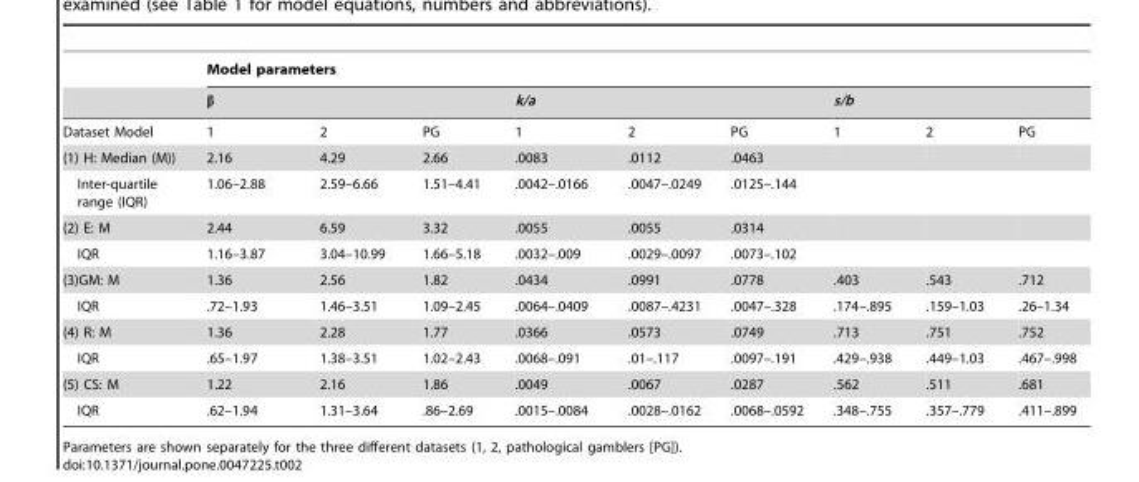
<table><thead><tr><td rowspan="3">Dataset Model</td><td colspan="9">Model parameters</td></tr><tr><td colspan="3">β</td><td colspan="3">k/a</td><td colspan="3">s/b</td></tr><tr><td>1</td><td>2</td><td>PG</td><td>1</td><td>2</td><td>PG</td><td>1</td><td>2</td><td>PG</td></tr></thead><tbody><tr><td>(1) H: Median (M))</td><td>2.16</td><td>4.29</td><td>2.66</td><td>.0083</td><td>.0112</td><td>.0463</td><td></td><td></td><td></td></tr><tr><td>Inter-quartile range (IQR)</td><td>1.06–2.88</td><td>2.59–6.66</td><td>1.51–4.41</td><td>.0042–.0166</td><td>.0047–.0249</td><td>.0125–.144</td><td></td><td></td><td></td></tr><tr><td>(2) E: M</td><td>2.44</td><td>6.59</td><td>3.32</td><td>.0055</td><td>.0055</td><td>.0314</td><td></td><td></td><td></td></tr><tr><td>IQR</td><td>1.16–3.87</td><td>3.04–10.99</td><td>1.66–5.18</td><td>.0032–.009</td><td>.0029–.0097</td><td>.0073–.102</td><td></td><td></td><td></td></tr><tr><td>(3)GM: M</td><td>1.36</td><td>2.56</td><td>1.82</td><td>.0434</td><td>.0991</td><td>.0778</td><td>.403</td><td>.543</td><td>.712</td></tr><tr><td>IQR</td><td>.72–1.93</td><td>1.46–3.51</td><td>1.09–2.45</td><td>.0064–.0409</td><td>.0087–.4231</td><td>.0047–.328</td><td>.174–.895</td><td>.159–1.03</td><td>.26–1.34</td></tr><tr><td>(4) R: M</td><td>1.36</td><td>2.28</td><td>1.77</td><td>.0366</td><td>.0573</td><td>.0749</td><td>.713</td><td>.751</td><td>.752</td></tr><tr><td>IQR</td><td>.65–1.97</td><td>1.38–3.51</td><td>1.02–2.43</td><td>.0068–.091</td><td>.01–.117</td><td>.0097–.191</td><td>.429–.938</td><td>.449–1.03</td><td>.467–.998</td></tr><tr><td>(5) CS: M</td><td>1.22</td><td>2.16</td><td>1.86</td><td>.0049</td><td>.0067</td><td>.0287</td><td>.562</td><td>.511</td><td>.681</td></tr><tr><td>IQR</td><td>.62–1.94</td><td>1.31–3.64</td><td>.86–2.69</td><td>.0015–.0084</td><td>.0028–.0162</td><td>.0068–.0592</td><td>.348–.755</td><td>.357–.779</td><td>.411–.899</td></tr></tbody></table>